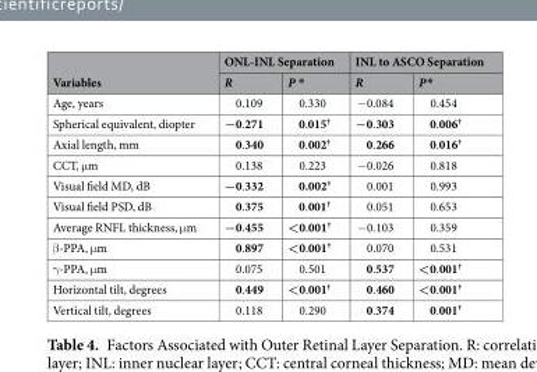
<table><thead><tr><td rowspan="2">Variables</td><td colspan="2">ONL-INL Separation</td><td colspan="2">INL to ASCO Separation</td></tr><tr><td>R</td><td>P *</td><td>R</td><td>P*</td></tr></thead><tbody><tr><td>Age, years</td><td>0.109</td><td>0.330</td><td>−0.084</td><td>0.454</td></tr><tr><td>Spherical equivalent, diopter</td><td>−0.271</td><td>0.015<sup>†</sup></td><td>−0.303</td><td>0.006<sup>†</sup></td></tr><tr><td>Axial length, mm</td><td>0.340</td><td>0.002<sup>†</sup></td><td>0.266</td><td>0.016<sup>†</sup></td></tr><tr><td>CCT, μm</td><td>0.138</td><td>0.223</td><td>−0.026</td><td>0.818</td></tr><tr><td>Visual field MD, dB</td><td>−0.332</td><td>0.002<sup>†</sup></td><td>0.001</td><td>0.993</td></tr><tr><td>Visual field PSD, dB</td><td>0.375</td><td>0.001<sup>†</sup></td><td>0.051</td><td>0.653</td></tr><tr><td>Average RNFL thickness, μm</td><td>−0.455</td><td>&lt;0.001<sup>†</sup></td><td>−0.103</td><td>0.359</td></tr><tr><td>β-PPA, μm</td><td>0.897</td><td>&lt;0.001<sup>†</sup></td><td>0.070</td><td>0.531</td></tr><tr><td>γ-PPA, μm</td><td>0.075</td><td>0.501</td><td>0.537</td><td>&lt;0.001<sup>†</sup></td></tr><tr><td>Horizontal tilt, degrees</td><td>0.449</td><td>&lt;0.001<sup>†</sup></td><td>0.460</td><td>&lt;0.001<sup>†</sup></td></tr><tr><td>Vertical tilt, degrees</td><td>0.118</td><td>0.290</td><td>0.374</td><td>0.001<sup>†</sup></td></tr></tbody></table>